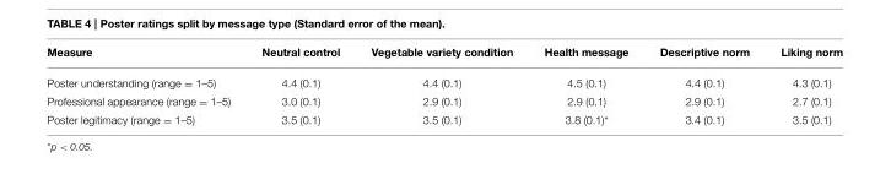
<table><thead><tr><td>Measure</td><td>Neutral control</td><td>Vegetable variety condition</td><td>Health message</td><td>Descriptive norm</td><td>Liking norm</td></tr></thead><tbody><tr><td>Poster understanding (range = 1–5)</td><td>4.4 (0.1)</td><td>4.4 (0.1)</td><td>4.5 (0.1)</td><td>4.4 (0.1)</td><td>4.3 (0.1)</td></tr><tr><td>Professional appearance (range = 1–5)</td><td>3.0 (0.1)</td><td>2.9 (0.1)</td><td>2.9 (0.1)</td><td>2.9 (0.1)</td><td>2.7 (0.1)</td></tr><tr><td>Poster legitimacy (range = 1–5)</td><td>3.5 (0.1)</td><td>3.5 (0.1)</td><td>3.8 (0.1)*</td><td>3.4 (0.1)</td><td>3.5 (0.1)</td></tr></tbody></table>